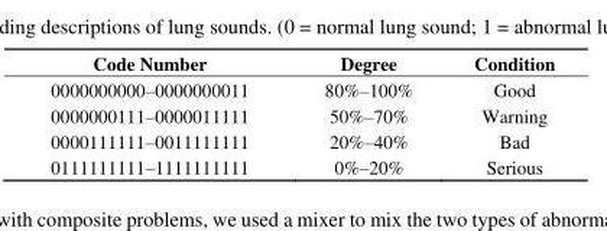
<table><thead><tr><td>Code Number</td><td>Degree</td><td>Condition</td></tr></thead><tbody><tr><td>0000000000–0000000011</td><td>80%–100%</td><td>Good</td></tr><tr><td>0000000111–0000011111</td><td>50%–70%</td><td>Warning</td></tr><tr><td>0000111111–0011111111</td><td>20%–40%</td><td>Bad</td></tr><tr><td>0111111111–1111111111</td><td>0%–20%</td><td>Serious</td></tr></tbody></table>